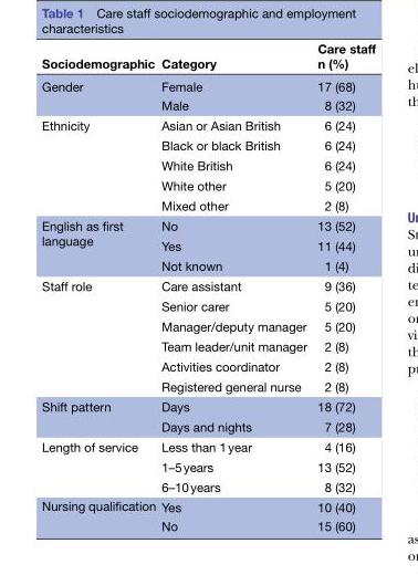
<table><thead><tr><td>Sociodemographic</td><td>Category</td><td>Care staff n (%)</td></tr></thead><tbody><tr><td rowspan="2">Gender</td><td>Female</td><td>17 (68)</td></tr><tr><td>Male</td><td>8 (32)</td></tr><tr><td rowspan="5">Ethnicity</td><td>Asian or Asian British</td><td>6 (24)</td></tr><tr><td>Black or black British</td><td>6 (24)</td></tr><tr><td>White British</td><td>6 (24)</td></tr><tr><td>White other</td><td>5 (20)</td></tr><tr><td>Mixed other</td><td>2 (8)</td></tr><tr><td rowspan="3">English as first language</td><td>No</td><td>13 (52)</td></tr><tr><td>Yes</td><td>11 (44)</td></tr><tr><td>Not known</td><td>1 (4)</td></tr><tr><td rowspan="6">Staff role</td><td>Care assistant</td><td>9 (36)</td></tr><tr><td>Senior carer</td><td>5 (20)</td></tr><tr><td>Manager/deputy manager</td><td>5 (20)</td></tr><tr><td>Team leader/unit manager</td><td>2 (8)</td></tr><tr><td>Activities coordinator</td><td>2 (8)</td></tr><tr><td>Registered general nurse</td><td>2 (8)</td></tr><tr><td rowspan="2">Shift pattern</td><td>Days</td><td>18 (72)</td></tr><tr><td>Days and nights</td><td>7 (28)</td></tr><tr><td rowspan="3">Length of service</td><td>Less than 1 year</td><td>4 (16)</td></tr><tr><td>1–5 years</td><td>13 (52)</td></tr><tr><td>6–10 years</td><td>8 (32)</td></tr><tr><td rowspan="2">Nursing qualification</td><td>Yes</td><td>10 (40)</td></tr><tr><td>No</td><td>15 (60)</td></tr></tbody></table>